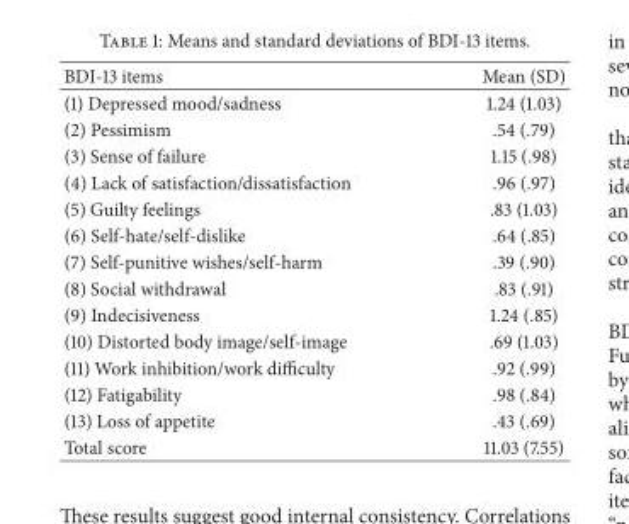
<table><thead><tr><td>BDI-13 items</td><td>Mean (SD)</td></tr></thead><tbody><tr><td>(1) Depressed mood/sadness</td><td>1.24 (1.03)</td></tr><tr><td>(2) Pessimism</td><td>.54 (.79)</td></tr><tr><td>(3) Sense of failure</td><td>1.15 (.98)</td></tr><tr><td>(4) Lack of satisfaction/dissatisfaction</td><td>.96 (.97)</td></tr><tr><td>(5) Guilty feelings</td><td>.83 (1.03)</td></tr><tr><td>(6) Self-hate/self-dislike</td><td>.64 (.85)</td></tr><tr><td>(7) Self-punitive wishes/self-harm</td><td>.39 (.90)</td></tr><tr><td>(8) Social withdrawal</td><td>.83 (.91)</td></tr><tr><td>(9) Indecisiveness</td><td>1.24 (.85)</td></tr><tr><td>(10) Distorted body image/self-image</td><td>.69 (1.03)</td></tr><tr><td>(11) Work inhibition/work difficulty</td><td>.92 (.99)</td></tr><tr><td>(12) Fatigability</td><td>.98 (.84)</td></tr><tr><td>(13) Loss of appetite</td><td>.43 (.69)</td></tr><tr><td>Total score</td><td>11.03 (7.55)</td></tr></tbody></table>